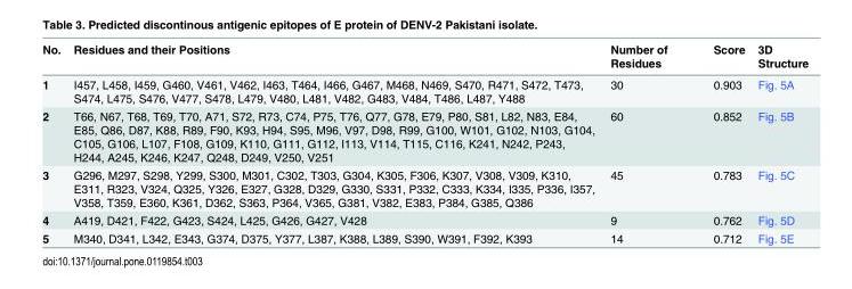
<table><thead><tr><td>No.</td><td>Residues and their Positions</td><td>Number of Residues</td><td>Score</td><td>3D Structure</td></tr></thead><tbody><tr><td>1</td><td>I457, L458, I459, G460, V461, V462, I463, T464, I466, G467, M468, N469, S470, R471, S472, T473, S474, L475, S476, V477, S478, L479, V480, L481, V482, G483, V484, T486, L487, Y488</td><td>30</td><td>0.903</td><td>Fig. 5A</td></tr><tr><td>2</td><td>T66, N67, T68, T69, T70, A71, S72, R73, C74, P75, T76, Q77, G78, E79, P80, S81, L82, N83, E84, E85, Q86, D87, K88, R89, F90, K93, H94, S95, M96, V97, D98, R99, G100, W101, G102, N103, G104, C105, G106, L107, F108, G109, K110, G111, G112, I113, V114, T115, C116, K241, N242, P243, H244, A245, K246, K247, Q248, D249, V250, V251</td><td>60</td><td>0.852</td><td>Fig. 5B</td></tr><tr><td>3</td><td>G296, M297, S298, Y299, S300, M301, C302, T303, G304, K305, F306, K307, V308, V309, K310, E311, R323, V324, Q325, Y326, E327, G328, D329, G330, S331, P332, C333, K334, I335, P336, I357, V358, T359, E360, K361, D362, S363, P364, V365, G381, V382, E383, P384, G385, Q386</td><td>45</td><td>0.783</td><td>Fig. 5C</td></tr><tr><td>4</td><td>A419, D421, F422, G423, S424, L425, G426, G427, V428</td><td>9</td><td>0.762</td><td>Fig. 5D</td></tr><tr><td>5</td><td>M340, D341, L342, E343, G374, D375, Y377, L387, K388, L389, S390, W391, F392, K393</td><td>14</td><td>0.712</td><td>Fig. 5E</td></tr></tbody></table>